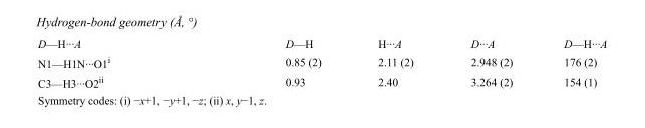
<table><tbody><tr><td>D—H···A</td><td>D—H</td><td>H···A</td><td>D···A</td><td>D—H···A</td></tr><tr><td>N1—H1N···O1<sup>i</sup></td><td>0.85 (2)</td><td>2.11 (2)</td><td>2.948 (2)</td><td>176 (2)</td></tr><tr><td>C3—H3···O2<sup>ii</sup></td><td>0.93</td><td>2.40</td><td>3.264 (2)</td><td>154 (1)</td></tr></tbody></table>